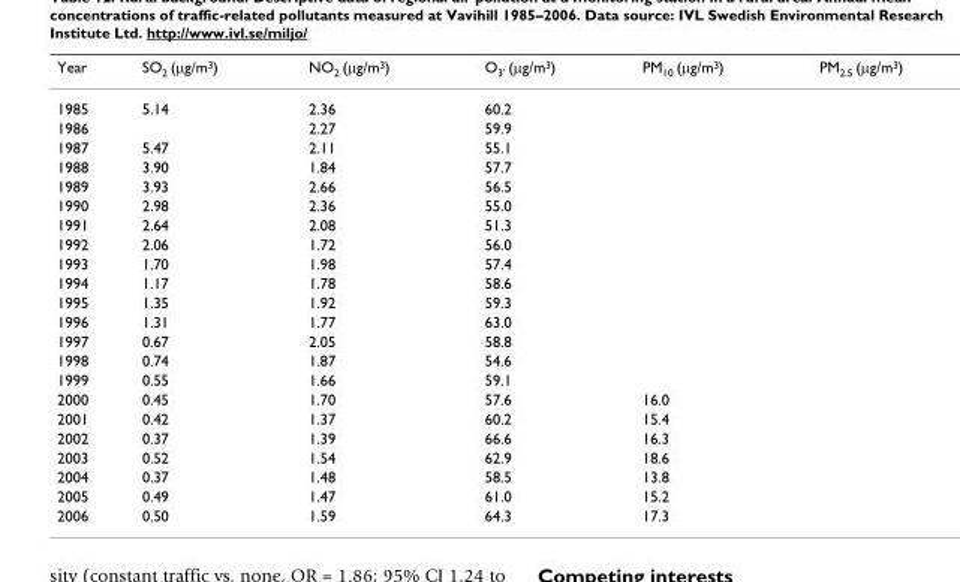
<table><thead><tr><td>Year</td><td>SO<sub>2</sub> (μg/m<sup>3</sup>)</td><td>NO<sub>2</sub> (μg/m<sup>3</sup>)</td><td>O<sub>3&#x27;</sub> (μg/m<sup>3</sup>)</td><td>PM<sub>10</sub> (μg/m<sup>3</sup>)</td><td>PM<sub>2.5</sub> (μg/m<sup>3</sup>)</td></tr></thead><tbody><tr><td>1985</td><td>5.14</td><td>2.36</td><td>60.2</td><td></td><td></td></tr><tr><td>1986</td><td></td><td>2.27</td><td>59.9</td><td></td><td></td></tr><tr><td>1987</td><td>5.47</td><td>2.11</td><td>55.1</td><td></td><td></td></tr><tr><td>1988</td><td>3.90</td><td>1.84</td><td>57.7</td><td></td><td></td></tr><tr><td>1989</td><td>3.93</td><td>2.66</td><td>56.5</td><td></td><td></td></tr><tr><td>1990</td><td>2.98</td><td>2.36</td><td>55.0</td><td></td><td></td></tr><tr><td>1991</td><td>2.64</td><td>2.08</td><td>51.3</td><td></td><td></td></tr><tr><td>1992</td><td>2.06</td><td>1.72</td><td>56.0</td><td></td><td></td></tr><tr><td>1993</td><td>1.70</td><td>1.98</td><td>57.4</td><td></td><td></td></tr><tr><td>1994</td><td>1.17</td><td>1.78</td><td>58.6</td><td></td><td></td></tr><tr><td>1995</td><td>1.35</td><td>1.92</td><td>59.3</td><td></td><td></td></tr><tr><td>1996</td><td>1.31</td><td>1.77</td><td>63.0</td><td></td><td></td></tr><tr><td>1997</td><td>0.67</td><td>2.05</td><td>58.8</td><td></td><td></td></tr><tr><td>1998</td><td>0.74</td><td>1.87</td><td>54.6</td><td></td><td></td></tr><tr><td>1999</td><td>0.55</td><td>1.66</td><td>59.1</td><td></td><td></td></tr><tr><td>2000</td><td>0.45</td><td>1.70</td><td>57.6</td><td>16.0</td><td></td></tr><tr><td>2001</td><td>0.42</td><td>1.37</td><td>60.2</td><td>15.4</td><td></td></tr><tr><td>2002</td><td>0.37</td><td>1.39</td><td>66.6</td><td>16.3</td><td></td></tr><tr><td>2003</td><td>0.52</td><td>1.54</td><td>62.9</td><td>18.6</td><td></td></tr><tr><td>2004</td><td>0.37</td><td>1.48</td><td>58.5</td><td>13.8</td><td></td></tr><tr><td>2005</td><td>0.49</td><td>1.47</td><td>61.0</td><td>15.2</td><td></td></tr><tr><td>2006</td><td>0.50</td><td>1.59</td><td>64.3</td><td>17.3</td><td></td></tr></tbody></table>